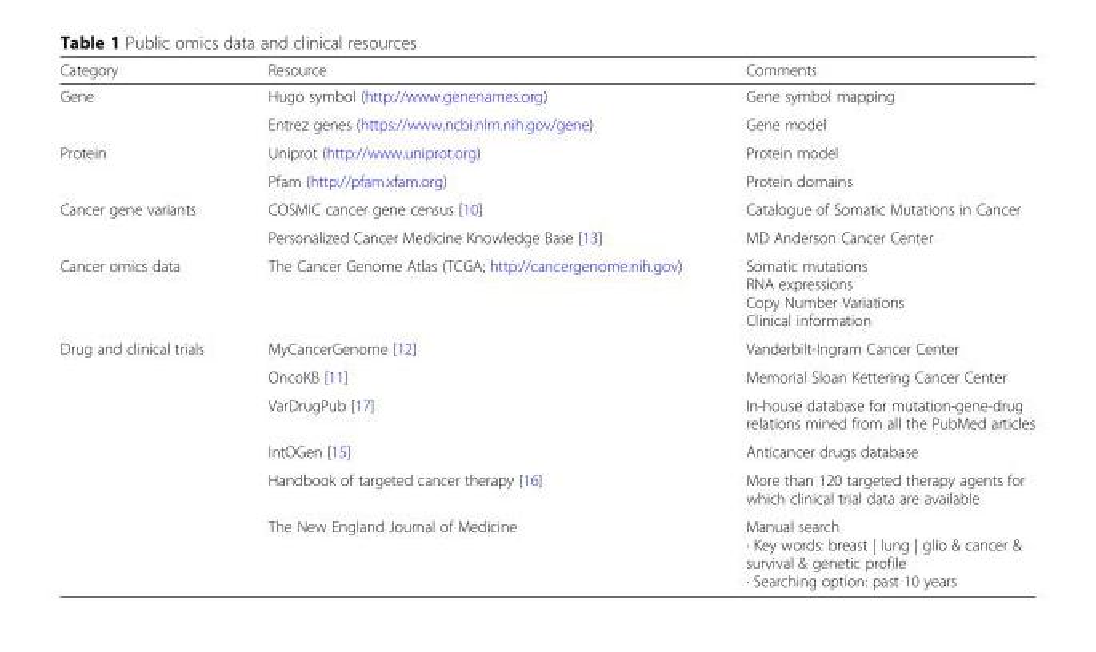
<table><thead><tr><td>Category</td><td>Resource</td><td>Comments</td></tr></thead><tbody><tr><td rowspan="2">Gene</td><td>Hugo symbol (http://www.genenames.org)</td><td>Gene symbol mapping</td></tr><tr><td>Entrez genes (https://www.ncbi.nlm.nih.gov/gene)</td><td>Gene model</td></tr><tr><td rowspan="2">Protein</td><td>Uniprot (http://www.uniprot.org)</td><td>Protein model</td></tr><tr><td>Pfam (http://pfam.xfam.org)</td><td>Protein domains</td></tr><tr><td rowspan="2">Cancer gene variants</td><td>COSMIC cancer gene census [10]</td><td>Catalogue of Somatic Mutations in Cancer</td></tr><tr><td>Personalized Cancer Medicine Knowledge Base [13]</td><td>MD Anderson Cancer Center</td></tr><tr><td>Cancer omics data</td><td>The Cancer Genome Atlas (TCGA; http://cancergenome.nih.gov)</td><td>Somatic mutations RNA expressions Copy Number Variations Clinical information</td></tr><tr><td rowspan="6">Drug and clinical trials</td><td>MyCancerGenome [12]</td><td>Vanderbilt-Ingram Cancer Center</td></tr><tr><td>OncoKB [11]</td><td>Memorial Sloan Kettering Cancer Center</td></tr><tr><td>VarDrugPub [17]</td><td>In-house database for mutation-gene-drug relations mined from all the PubMed articles</td></tr><tr><td>IntOGen [15]</td><td>Anticancer drugs database</td></tr><tr><td>Handbook of targeted cancer therapy [16]</td><td>More than 120 targeted therapy agents for which clinical trial data are available</td></tr><tr><td>The New England Journal of Medicine</td><td>Manual search · Key words: breast | lung | glio &amp; cancer &amp; survival &amp; genetic profile · Searching option: past 10 years</td></tr></tbody></table>